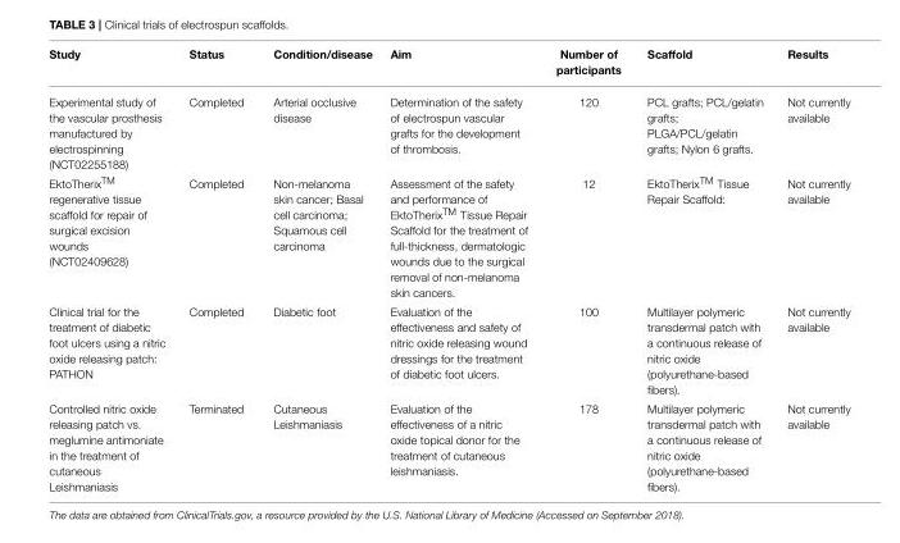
<table><thead><tr><td>Study</td><td>Status</td><td>Condition/disease</td><td>Aim</td><td>Number of participants</td><td>Scaffold</td><td>Results</td></tr></thead><tbody><tr><td>Experimental study of the vascular prosthesis manufactured by electrospinning (NCT02255188)</td><td>Completed</td><td>Arterial occlusive disease</td><td>Determination of the safety of electrospun vascular grafts for the development of thrombosis.</td><td>120</td><td>PCL grafts; PCL/gelatin grafts; PLGA/PCL/gelatin grafts; Nylon 6 grafts.</td><td>Not currently available</td></tr><tr><td>EktoTherixTM regenerative tissue scaffold for repair of surgical excision wounds (NCT02409628)</td><td>Completed</td><td>Non-melanoma skin cancer; Basal cell carcinoma; Squamous cell carcinoma</td><td>Assessment of the safety and performance of EktoTherixTM Tissue Repair Scaffold for the treatment of full-thickness, dermatologic wounds due to the surgical removal of non-melanoma skin cancers.</td><td>12</td><td>EktoTherixTM Tissue Repair Scaffold:</td><td>Not currently available</td></tr><tr><td>Clinical trial for the treatment of diabetic foot ulcers using a nitric oxide releasing patch: PATHON</td><td>Completed</td><td>Diabetic foot</td><td>Evaluation of the effectiveness and safety of nitric oxide releasing wound dressings for the treatment of diabetic foot ulcers.</td><td>100</td><td>Multilayer polymeric transdermal patch with a continuous release of nitric oxide (polyurethane-based fibers).</td><td>Not currently available</td></tr><tr><td>Controlled nitric oxide releasing patch vs. meglumine antimoniate in the treatment of cutaneous Leishmaniasis</td><td>Terminated</td><td>Cutaneous Leishmaniasis</td><td>Evaluation of the effectiveness of a nitric oxide topical donor for the treatment of cutaneous leishmaniasis.</td><td>178</td><td>Multilayer polymeric transdermal patch with a continuous release of nitric oxide (polyurethane-based fibers).</td><td>Not currently available</td></tr></tbody></table>